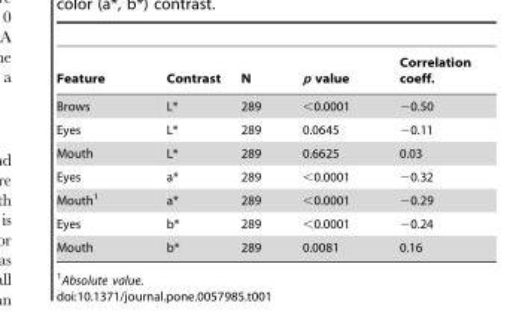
<table><thead><tr><td>Feature</td><td>Contrast</td><td>N</td><td>p value</td><td>Correlation coeff.</td></tr></thead><tbody><tr><td>Brows</td><td>L*</td><td>289</td><td>&lt;0.0001</td><td>−0.50</td></tr><tr><td>Eyes</td><td>L*</td><td>289</td><td>0.0645</td><td>−0.11</td></tr><tr><td>Mouth</td><td>L*</td><td>289</td><td>0.6625</td><td>0.03</td></tr><tr><td>Eyes</td><td>a*</td><td>289</td><td>&lt;0.0001</td><td>−0.32</td></tr><tr><td>Mouth<sup>1</sup></td><td>a*</td><td>289</td><td>&lt;0.0001</td><td>−0.29</td></tr><tr><td>Eyes</td><td>b*</td><td>289</td><td>&lt;0.0001</td><td>−0.24</td></tr><tr><td>Mouth</td><td>b*</td><td>289</td><td>0.0081</td><td>0.16</td></tr></tbody></table>